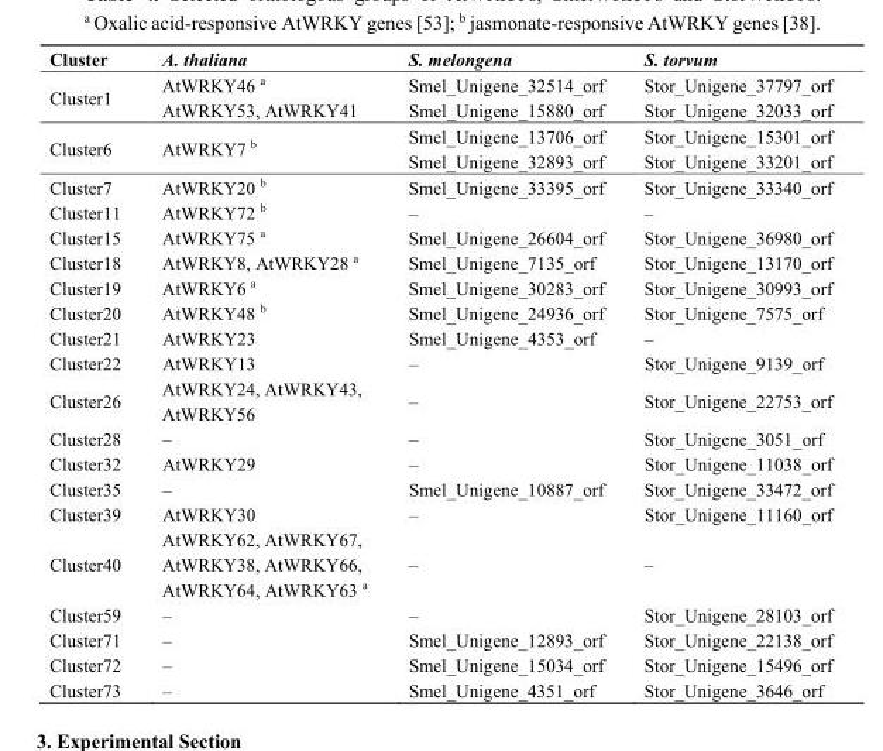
<table><thead><tr><td>Cluster</td><td>A. thaliana</td><td>S. melongena</td><td>S. torvum</td></tr></thead><tbody><tr><td rowspan="2">Cluster1</td><td>AtWRKY46 <sup>a</sup></td><td>Smel_Unigene_32514_orf</td><td>Stor_Unigene_37797_orf</td></tr><tr><td>AtWRKY53, AtWRKY41</td><td>Smel_Unigene_15880_orf</td><td>Stor_Unigene_32033_orf</td></tr><tr><td rowspan="2">Cluster6</td><td rowspan="2">AtWRKY7 <sup>b</sup></td><td>Smel_Unigene_13706_orf</td><td>Stor_Unigene_15301_orf</td></tr><tr><td>Smel_Unigene_32893_orf</td><td>Stor_Unigene_33201_orf</td></tr><tr><td>Cluster7</td><td>AtWRKY20 <sup>b</sup></td><td>Smel_Unigene_33395_orf</td><td>Stor_Unigene_33340_orf</td></tr><tr><td>Cluster11</td><td>AtWRKY72 <sup>b</sup></td><td>–</td><td>–</td></tr><tr><td>Cluster15</td><td>AtWRKY75 <sup>a</sup></td><td>Smel_Unigene_26604_orf</td><td>Stor_Unigene_36980_orf</td></tr><tr><td>Cluster18</td><td>AtWRKY8, AtWRKY28 <sup>a</sup></td><td>Smel_Unigene_7135_orf</td><td>Stor_Unigene_13170_orf</td></tr><tr><td>Cluster19</td><td>AtWRKY6 <sup>a</sup></td><td>Smel_Unigene_30283_orf</td><td>Stor_Unigene_30993_orf</td></tr><tr><td>Cluster20</td><td>AtWRKY48 <sup>b</sup></td><td>Smel_Unigene_24936_orf</td><td>Stor_Unigene_7575_orf</td></tr><tr><td>Cluster21</td><td>AtWRKY23</td><td>Smel_Unigene_4353_orf</td><td>–</td></tr><tr><td>Cluster22</td><td>AtWRKY13</td><td>–</td><td>Stor_Unigene_9139_orf</td></tr><tr><td>Cluster26</td><td>AtWRKY24, AtWRKY43, AtWRKY56</td><td>–</td><td>Stor_Unigene_22753_orf</td></tr><tr><td>Cluster28</td><td>–</td><td>–</td><td>Stor_Unigene_3051_orf</td></tr><tr><td>Cluster32</td><td>AtWRKY29</td><td>–</td><td>Stor_Unigene_11038_orf</td></tr><tr><td>Cluster35</td><td>–</td><td>Smel_Unigene_10887_orf</td><td>Stor_Unigene_33472_orf</td></tr><tr><td>Cluster39</td><td>AtWRKY30</td><td>–</td><td>Stor_Unigene_11160_orf</td></tr><tr><td>Cluster40</td><td>AtWRKY62, AtWRKY67, AtWRKY38, AtWRKY66, AtWRKY64, AtWRKY63 <sup>a</sup></td><td>–</td><td>–</td></tr><tr><td>Cluster59</td><td>–</td><td>–</td><td>Stor_Unigene_28103_orf</td></tr><tr><td>Cluster71</td><td>–</td><td>Smel_Unigene_12893_orf</td><td>Stor_Unigene_22138_orf</td></tr><tr><td>Cluster72</td><td>–</td><td>Smel_Unigene_15034_orf</td><td>Stor_Unigene_15496_orf</td></tr><tr><td>Cluster73</td><td>–</td><td>Smel_Unigene_4351_orf</td><td>Stor_Unigene_3646_orf</td></tr></tbody></table>